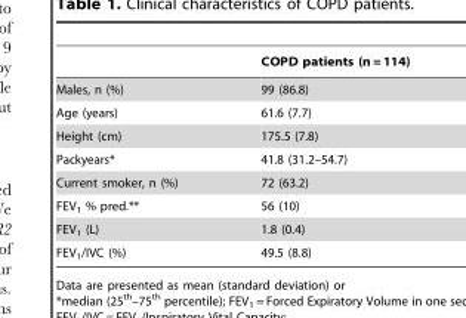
<table><thead><tr><td></td><td>COPD patients (n = 114)</td></tr></thead><tbody><tr><td>Males, n (%)</td><td>99 (86.8)</td></tr><tr><td>Age (years)</td><td>61.6 (7.7)</td></tr><tr><td>Height (cm)</td><td>175.5 (7.8)</td></tr><tr><td>Packyears*</td><td>41.8 (31.2–54.7)</td></tr><tr><td>Current smoker, n (%)</td><td>72 (63.2)</td></tr><tr><td>FEV<sub>1</sub> % pred.**</td><td>56 (10)</td></tr><tr><td>FEV<sub>1</sub> (L)</td><td>1.8 (0.4)</td></tr><tr><td>FEV<sub>1</sub>/IVC (%)</td><td>49.5 (8.8)</td></tr></tbody></table>